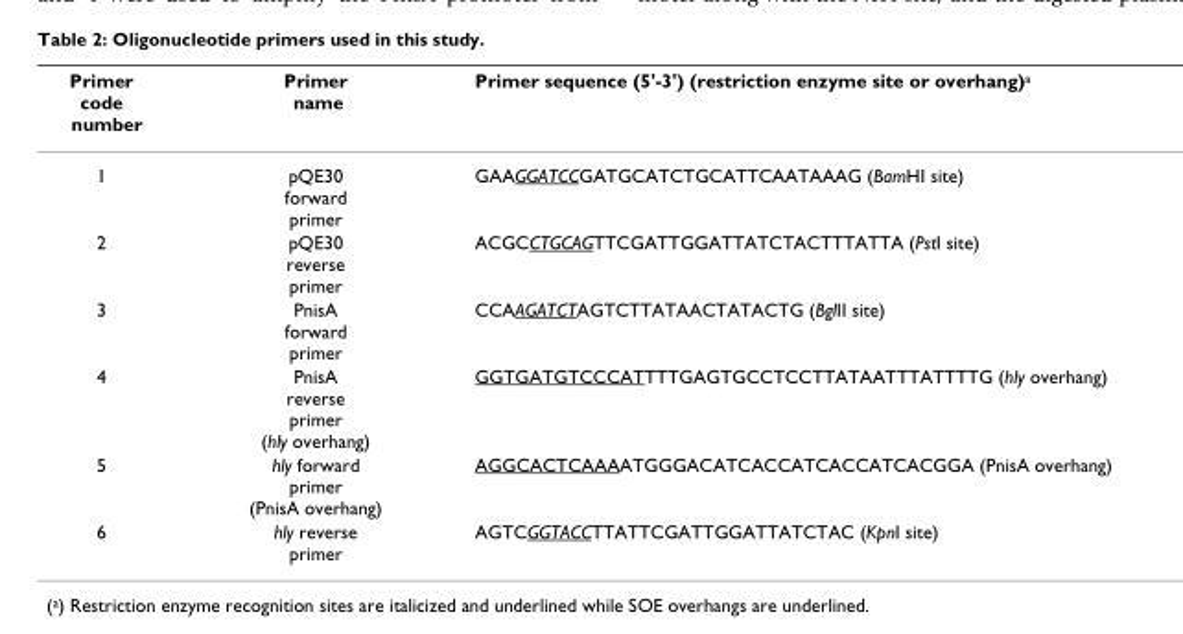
<table><thead><tr><td>Primer code number</td><td>Primer name</td><td>Primer sequence (5&#x27;-3&#x27;) (restriction enzyme site or overhang)<sup>a</sup></td></tr></thead><tbody><tr><td>1</td><td>pQE30 forward primer</td><td>GAAGGATCCGATGCATCTGCATTCAATAAAG (BamHI site)</td></tr><tr><td>2</td><td>pQE30 reverse primer</td><td>ACGCCTGCAGTTCGATTGGATTATCTACTTTATTA (PstI site)</td></tr><tr><td>3</td><td>PnisA forward primer</td><td>CCAAGATCTAGTCTTATAACTATACTG (BglII site)</td></tr><tr><td>4</td><td>PnisA reverse primer (hly overhang)</td><td>GGTGATGTCCCATTTTGAGTGCCTCCTTATAATTTATTTTG (hly overhang)</td></tr><tr><td>5</td><td>hly forward primer (PnisA overhang)</td><td>AGGCACTCAAAATGGGACATCACCATCACCATCACGGA (PnisA overhang)</td></tr><tr><td>6</td><td>hly reverse primer</td><td>AGTCGGTACCTTATTCGATTGGATTATCTAC (KpnI site)</td></tr></tbody></table>